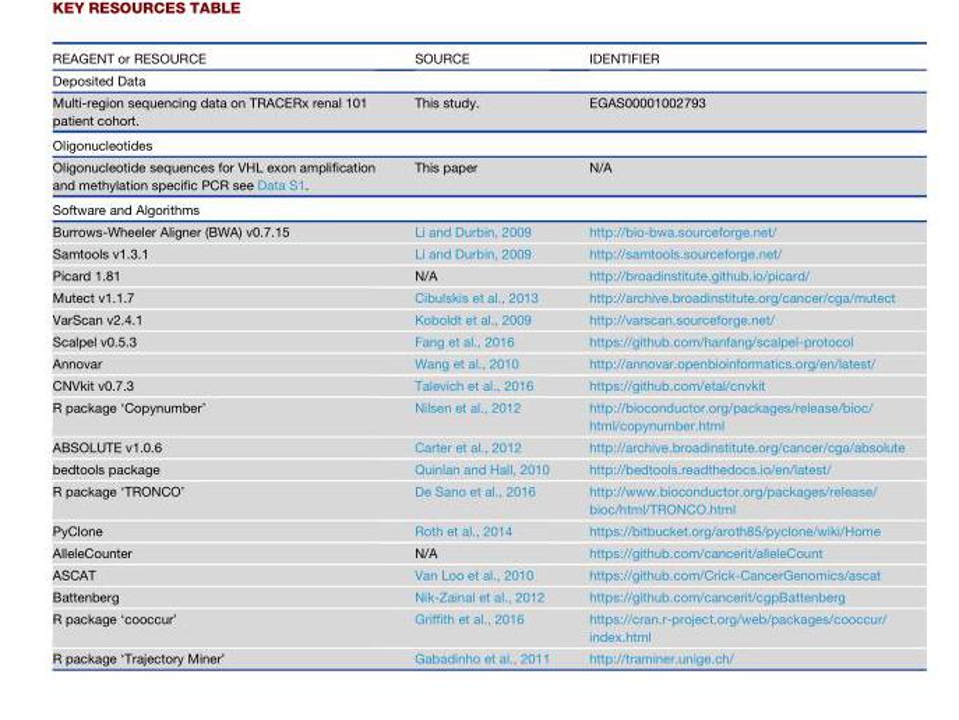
<table><thead><tr><td>REAGENT or RESOURCE</td><td>SOURCE</td><td>IDENTIFIER</td></tr></thead><tbody><tr><td colspan="3">Deposited Data</td></tr><tr><td>Multi-region sequencing data on TRACERx renal 101 patient cohort.</td><td>This study.</td><td>EGAS00001002793</td></tr><tr><td colspan="3">Oligonucleotides</td></tr><tr><td>Oligonucleotide sequences for VHL exon amplification and methylation specific PCR see Data S1.</td><td>This paper</td><td>N/A</td></tr><tr><td colspan="3">Software and Algorithms</td></tr><tr><td>Burrows-Wheeler Aligner (BWA) v0.7.15</td><td>Li and Durbin, 2009</td><td>http://bio-bwa.sourceforge.net/</td></tr><tr><td>Samtools v1.3.1</td><td>Li and Durbin, 2009</td><td>http://samtools.sourceforge.net/</td></tr><tr><td>Picard 1.81</td><td>N/A</td><td>http://broadinstitute.github.io/picard/</td></tr><tr><td>Mutect v1.1.7</td><td>Cibulskis et al., 2013</td><td>http://archive.broadinstitute.org/cancer/cga/mutect</td></tr><tr><td>VarScan v2.4.1</td><td>Koboldt et al., 2009</td><td>http://varscan.sourceforge.net/</td></tr><tr><td>Scalpel v0.5.3</td><td>Fang et al., 2016</td><td>https://github.com/hanfang/scalpel-protocol</td></tr><tr><td>Annovar</td><td>Wang et al., 2010</td><td>http://annovar.openbioinformatics.org/en/latest/</td></tr><tr><td>CNVkit v0.7.3</td><td>Talevich et al., 2016</td><td>https://github.com/etal/cnvkit</td></tr><tr><td>R package ‘Copynumber’</td><td>Nilsen et al., 2012</td><td>http://bioconductor.org/packages/release/bioc/ html/copynumber.html</td></tr><tr><td>ABSOLUTE v1.0.6</td><td>Carter et al., 2012</td><td>http://archive.broadinstitute.org/cancer/cga/absolute</td></tr><tr><td>bedtools package</td><td>Quinlan and Hall, 2010</td><td>http://bedtools.readthedocs.io/en/latest/</td></tr><tr><td>R package ‘TRONCO’</td><td>De Sano et al., 2016</td><td>http://www.bioconductor.org/packages/release/ bioc/html/TRONCO.html</td></tr><tr><td>PyClone</td><td>Roth et al., 2014</td><td>https://bitbucket.org/aroth85/pyclone/wiki/Home</td></tr><tr><td>AlleleCounter</td><td>N/A</td><td>https://github.com/cancerit/alleleCount</td></tr><tr><td>ASCAT</td><td>Van Loo et al., 2010</td><td>https://github.com/Crick-CancerGenomics/ascat</td></tr><tr><td>Battenberg</td><td>Nik-Zainal et al., 2012</td><td>https://github.com/cancerit/cgpBattenberg</td></tr><tr><td>R package ‘cooccur’</td><td>Griffith et al., 2016</td><td>https://cran.r-project.org/web/packages/cooccur/ index.html</td></tr><tr><td>R package ‘Trajectory Miner’</td><td>Gabadinho et al., 2011</td><td>http://traminer.unige.ch/</td></tr></tbody></table>